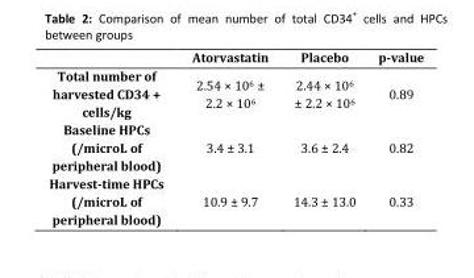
<table><thead><tr><td></td><td>Atorvastatin</td><td>Placebo</td><td>p-value</td></tr></thead><tbody><tr><td>Total number of harvested CD34 + cells/kg</td><td>2.54 × 10<sup>6</sup> ± 2.2 × 10<sup>6</sup></td><td>2.44 × 10<sup>6</sup> ± 2.2 × 10<sup>6</sup></td><td>0.89</td></tr><tr><td>Baseline HPCs (/microL of peripheral blood)</td><td>3.4 ± 3.1</td><td>3.6 ± 2.4</td><td>0.82</td></tr><tr><td>Harvest-time HPCs (/microL of peripheral blood)</td><td>10.9 ± 9.7</td><td>14.3 ± 13.0</td><td>0.33</td></tr></tbody></table>